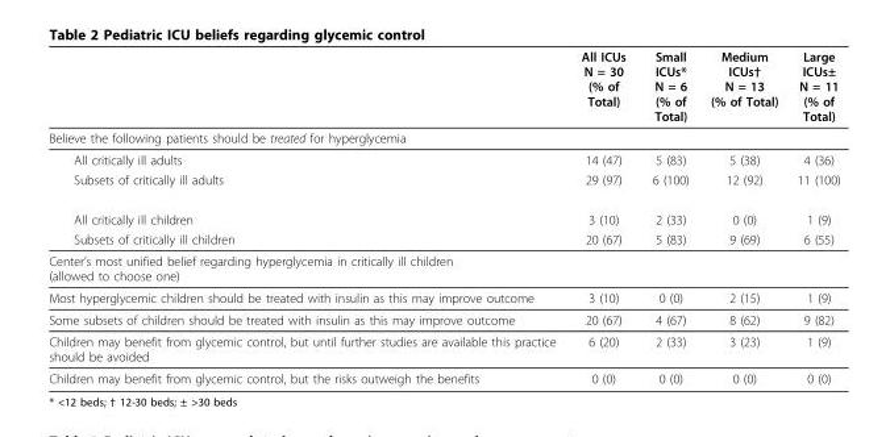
<table><thead><tr><td></td><td>All ICUs N = 30 (% of Total)</td><td>Small ICUs* N = 6 (% of Total)</td><td>Medium ICUs† N = 13 (% of Total)</td><td>Large ICUs± N = 11 (% of Total)</td></tr></thead><tbody><tr><td colspan="5">Believe the following patients should be treated for hyperglycemia</td></tr><tr><td>All critically ill adults</td><td>14 (47)</td><td>5 (83)</td><td>5 (38)</td><td>4 (36)</td></tr><tr><td>Subsets of critically ill adults</td><td>29 (97)</td><td>6 (100)</td><td>12 (92)</td><td>11 (100)</td></tr><tr><td>All critically ill children</td><td>3 (10)</td><td>2 (33)</td><td>0 (0)</td><td>1 (9)</td></tr><tr><td>Subsets of critically ill children</td><td>20 (67)</td><td>5 (83)</td><td>9 (69)</td><td>6 (55)</td></tr><tr><td colspan="5">Center’s most unified belief regarding hyperglycemia in critically ill children (allowed to choose one)</td></tr><tr><td>Most hyperglycemic children should be treated with insulin as this may improve outcome</td><td>3 (10)</td><td>0 (0)</td><td>2 (15)</td><td>1 (9)</td></tr><tr><td>Some subsets of children should be treated with insulin as this may improve outcome</td><td>20 (67)</td><td>4 (67)</td><td>8 (62)</td><td>9 (82)</td></tr><tr><td>Children may benefit from glycemic control, but until further studies are available this practice should be avoided</td><td>6 (20)</td><td>2 (33)</td><td>3 (23)</td><td>1 (9)</td></tr><tr><td>Children may benefit from glycemic control, but the risks outweigh the benefits</td><td>0 (0)</td><td>0 (0)</td><td>0 (0)</td><td>0 (0)</td></tr></tbody></table>